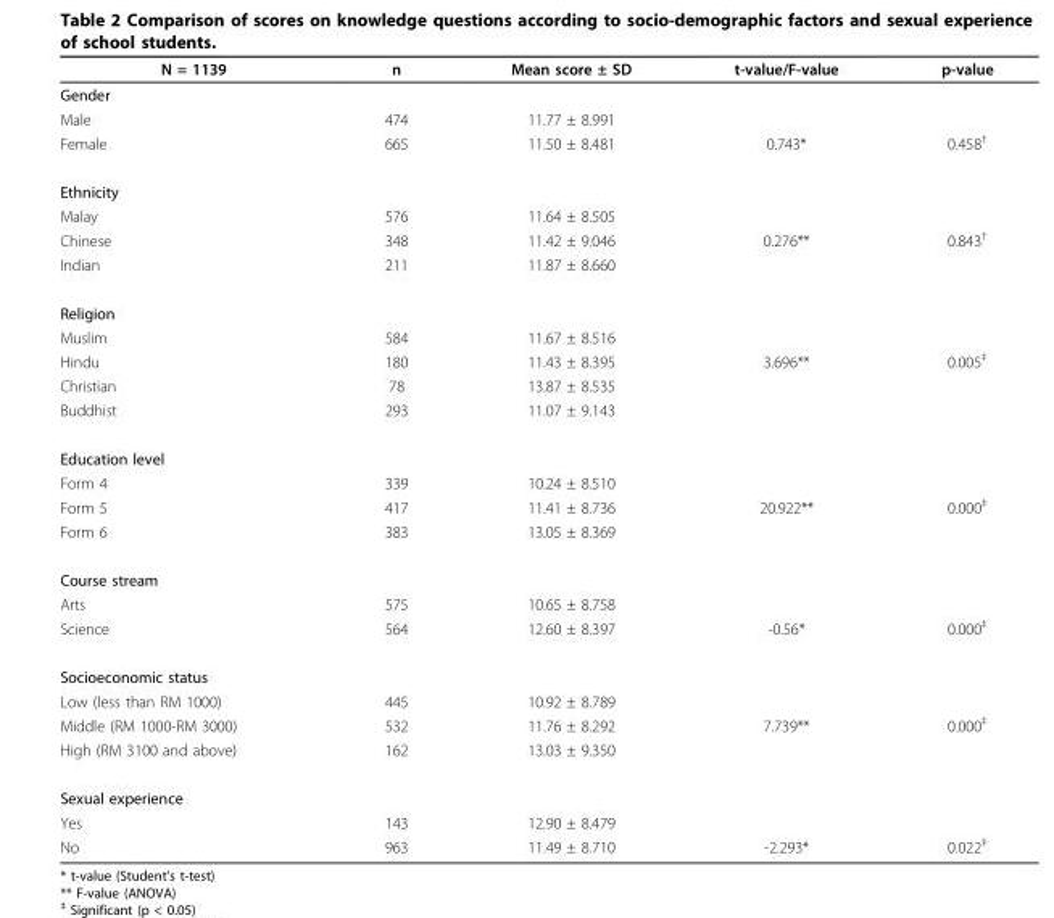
<table><thead><tr><td>N = 1139</td><td>n</td><td>Mean score ± SD</td><td>t-value/F-value</td><td>p-value</td></tr></thead><tbody><tr><td colspan="5">Gender</td></tr><tr><td>Male</td><td>474</td><td>11.77 ± 8.991</td><td></td><td></td></tr><tr><td>Female</td><td>665</td><td>11.50 ± 8.481</td><td>0.743*</td><td>0.458<sup>†</sup></td></tr><tr><td colspan="5">Ethnicity</td></tr><tr><td>Malay</td><td>576</td><td>11.64 ± 8.505</td><td></td><td></td></tr><tr><td>Chinese</td><td>348</td><td>11.42 ± 9.046</td><td>0.276**</td><td>0.843<sup>†</sup></td></tr><tr><td>Indian</td><td>211</td><td>11.87 ± 8.660</td><td></td><td></td></tr><tr><td colspan="5">Religion</td></tr><tr><td>Muslim</td><td>584</td><td>11.67 ± 8.516</td><td></td><td></td></tr><tr><td>Hindu</td><td>180</td><td>11.43 ± 8.395</td><td>3.696**</td><td>0.005<sup>‡</sup></td></tr><tr><td>Christian</td><td>78</td><td>13.87 ± 8.535</td><td></td><td></td></tr><tr><td>Buddhist</td><td>293</td><td>11.07 ± 9.143</td><td></td><td></td></tr><tr><td colspan="5">Education level</td></tr><tr><td>Form 4</td><td>339</td><td>10.24 ± 8.510</td><td></td><td></td></tr><tr><td>Form 5</td><td>417</td><td>11.41 ± 8.736</td><td>20.922**</td><td>0.000<sup>‡</sup></td></tr><tr><td>Form 6</td><td>383</td><td>13.05 ± 8.369</td><td></td><td></td></tr><tr><td colspan="5">Course stream</td></tr><tr><td>Arts</td><td>575</td><td>10.65 ± 8.758</td><td></td><td></td></tr><tr><td>Science</td><td>564</td><td>12.60 ± 8.397</td><td>-0.56*</td><td>0.000<sup>‡</sup></td></tr><tr><td colspan="5">Socioeconomic status</td></tr><tr><td>Low (less than RM 1000)</td><td>445</td><td>10.92 ± 8.789</td><td></td><td></td></tr><tr><td>Middle (RM 1000-RM 3000)</td><td>532</td><td>11.76 ± 8.292</td><td>7.739**</td><td>0.000<sup>‡</sup></td></tr><tr><td>High (RM 3100 and above)</td><td>162</td><td>13.03 ± 9.350</td><td></td><td></td></tr><tr><td colspan="5">Sexual experience</td></tr><tr><td>Yes</td><td>143</td><td>12.90 ± 8.479</td><td></td><td></td></tr><tr><td>No</td><td>963</td><td>11.49 ± 8.710</td><td>-2.293*</td><td>0.022<sup>‡</sup></td></tr></tbody></table>